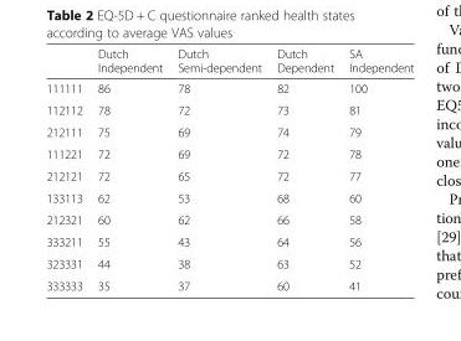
<table><thead><tr><td></td><td>Dutch Independent</td><td>Dutch Semi-dependent</td><td>Dutch Dependent</td><td>SA Independent</td></tr></thead><tbody><tr><td>111111</td><td>86</td><td>78</td><td>82</td><td>100</td></tr><tr><td>112112</td><td>78</td><td>72</td><td>73</td><td>81</td></tr><tr><td>212111</td><td>75</td><td>69</td><td>74</td><td>79</td></tr><tr><td>111221</td><td>72</td><td>69</td><td>72</td><td>78</td></tr><tr><td>212121</td><td>72</td><td>65</td><td>72</td><td>77</td></tr><tr><td>133113</td><td>62</td><td>53</td><td>68</td><td>60</td></tr><tr><td>212321</td><td>60</td><td>62</td><td>66</td><td>58</td></tr><tr><td>333211</td><td>55</td><td>43</td><td>64</td><td>56</td></tr><tr><td>323331</td><td>44</td><td>38</td><td>63</td><td>52</td></tr><tr><td>333333</td><td>35</td><td>37</td><td>60</td><td>41</td></tr></tbody></table>